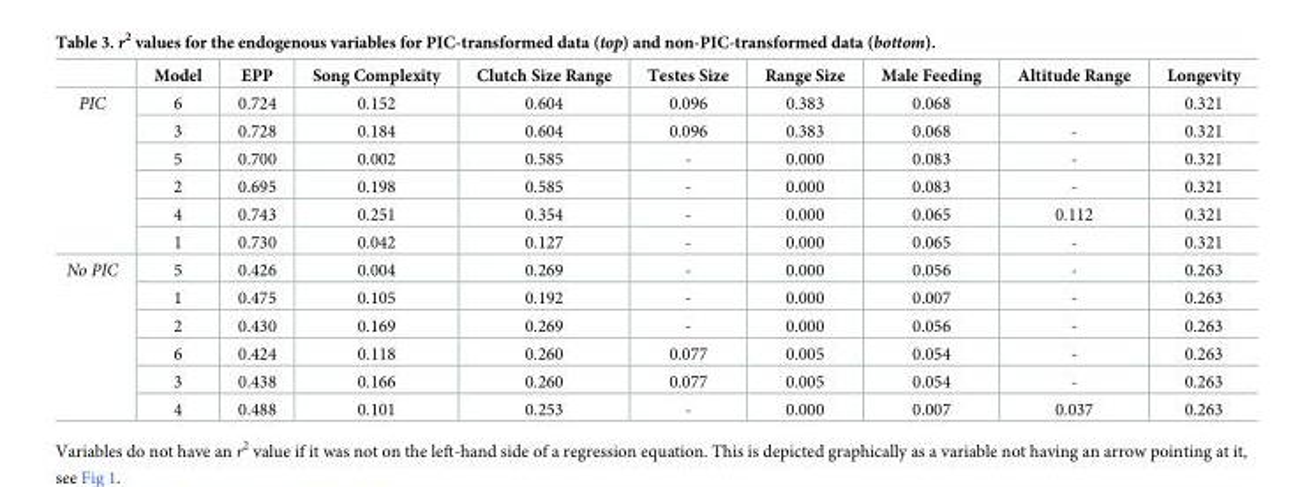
<table><thead><tr><td></td><td>Model</td><td>EPP</td><td>Song Complexity</td><td>Clutch Size Range</td><td>Testes Size</td><td>Range Size</td><td>Male Feeding</td><td>Altitude Range</td><td>Longevity</td></tr></thead><tbody><tr><td rowspan="6">PIC</td><td>6</td><td>0.724</td><td>0.152</td><td>0.604</td><td>0.096</td><td>0.383</td><td>0.068</td><td></td><td>0.321</td></tr><tr><td>3</td><td>0.728</td><td>0.184</td><td>0.604</td><td>0.096</td><td>0.383</td><td>0.068</td><td>-</td><td>0.321</td></tr><tr><td>5</td><td>0.700</td><td>0.002</td><td>0.585</td><td>-</td><td>0.000</td><td>0.083</td><td>-</td><td>0.321</td></tr><tr><td>2</td><td>0.695</td><td>0.198</td><td>0.585</td><td>-</td><td>0.000</td><td>0.083</td><td>-</td><td>0.321</td></tr><tr><td>4</td><td>0.743</td><td>0.251</td><td>0.354</td><td>-</td><td>0.000</td><td>0.065</td><td>0.112</td><td>0.321</td></tr><tr><td>1</td><td>0.730</td><td>0.042</td><td>0.127</td><td>-</td><td>0.000</td><td>0.065</td><td>-</td><td>0.321</td></tr><tr><td rowspan="6">No PIC</td><td>5</td><td>0.426</td><td>0.004</td><td>0.269</td><td>-</td><td>0.000</td><td>0.056</td><td>-</td><td>0.263</td></tr><tr><td>1</td><td>0.475</td><td>0.105</td><td>0.192</td><td>-</td><td>0.000</td><td>0.007</td><td>-</td><td>0.263</td></tr><tr><td>2</td><td>0.430</td><td>0.169</td><td>0.269</td><td>-</td><td>0.000</td><td>0.056</td><td>-</td><td>0.263</td></tr><tr><td>6</td><td>0.424</td><td>0.118</td><td>0.260</td><td>0.077</td><td>0.005</td><td>0.054</td><td>-</td><td>0.263</td></tr><tr><td>3</td><td>0.438</td><td>0.166</td><td>0.260</td><td>0.077</td><td>0.005</td><td>0.054</td><td>-</td><td>0.263</td></tr><tr><td>4</td><td>0.488</td><td>0.101</td><td>0.253</td><td>-</td><td>0.000</td><td>0.007</td><td>0.037</td><td>0.263</td></tr></tbody></table>